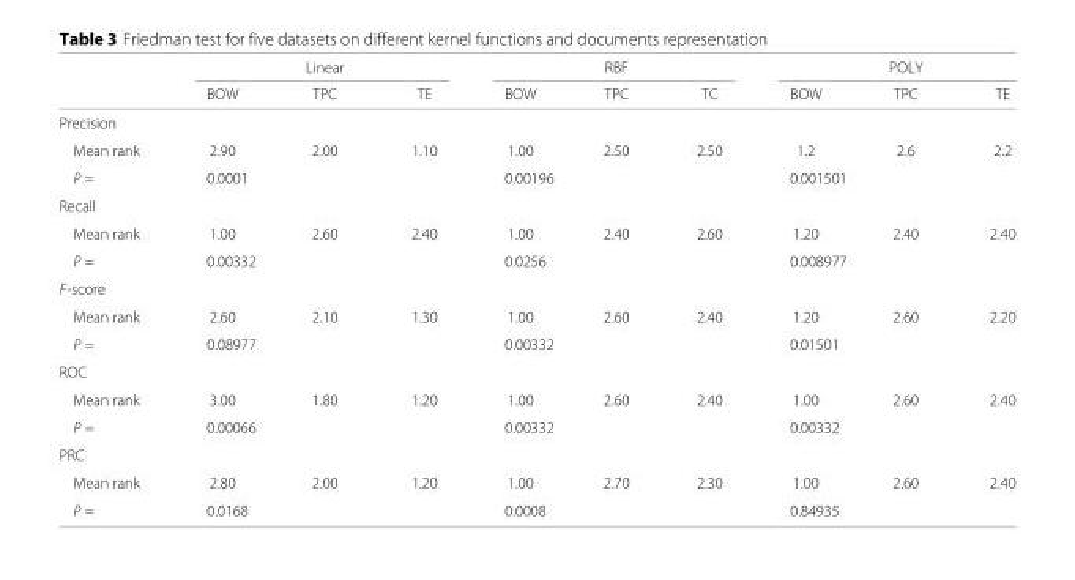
<table><thead><tr><td rowspan="2"></td><td rowspan="2">BOW</td><td rowspan="2">Linear TPC</td><td rowspan="2">TE</td><td rowspan="2">BOW</td><td rowspan="2">RBF TPC</td><td rowspan="2">TC</td><td rowspan="2">BOW</td><td rowspan="2">POLY TPC</td><td rowspan="2">TE</td></tr><tr></tr></thead><tbody><tr><td colspan="10">Precision</td></tr><tr><td>Mean rank</td><td>2.90</td><td>2.00</td><td>1.10</td><td>1.00</td><td>2.50</td><td>2.50</td><td>1.2</td><td>2.6</td><td>2.2</td></tr><tr><td>P =</td><td colspan="3">0.0001</td><td colspan="3">0.00196</td><td colspan="3">0.001501</td></tr><tr><td colspan="10">Recall</td></tr><tr><td>Mean rank</td><td>1.00</td><td>2.60</td><td>2.40</td><td>1.00</td><td>2.40</td><td>2.60</td><td>1.20</td><td>2.40</td><td>2.40</td></tr><tr><td>P =</td><td colspan="3">0.00332</td><td colspan="3">0.0256</td><td colspan="3">0.008977</td></tr><tr><td colspan="10">F-score</td></tr><tr><td>Mean rank</td><td>2.60</td><td>2.10</td><td>1.30</td><td>1.00</td><td>2.60</td><td>2.40</td><td>1.20</td><td>2.60</td><td>2.20</td></tr><tr><td>P =</td><td colspan="3">0.08977</td><td colspan="3">0.00332</td><td colspan="3">0.01501</td></tr><tr><td colspan="10">ROC</td></tr><tr><td>Mean rank</td><td>3.00</td><td>1.80</td><td>1.20</td><td>1.00</td><td>2.60</td><td>2.40</td><td>1.00</td><td>2.60</td><td>2.40</td></tr><tr><td>P =</td><td colspan="3">0.00066</td><td colspan="3">0.00332</td><td colspan="3">0.00332</td></tr><tr><td colspan="10">PRC</td></tr><tr><td>Mean rank</td><td>2.80</td><td>2.00</td><td>1.20</td><td>1.00</td><td>2.70</td><td>2.30</td><td>1.00</td><td>2.60</td><td>2.40</td></tr><tr><td>P =</td><td colspan="3">0.0168</td><td colspan="3">0.0008</td><td colspan="3">0.84935</td></tr></tbody></table>